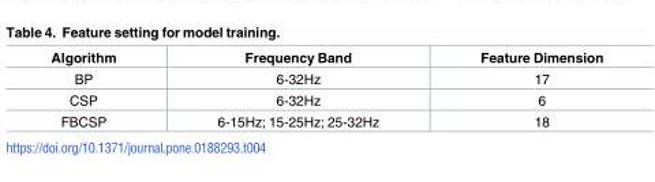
<table><thead><tr><td>Algorithm</td><td>Frequency Band</td><td>Feature Dimension</td></tr></thead><tbody><tr><td>BP</td><td>6-32Hz</td><td>17</td></tr><tr><td>CSP</td><td>6-32Hz</td><td>6</td></tr><tr><td>FBCSP</td><td>6-15Hz; 15-25Hz; 25-32Hz</td><td>18</td></tr></tbody></table>